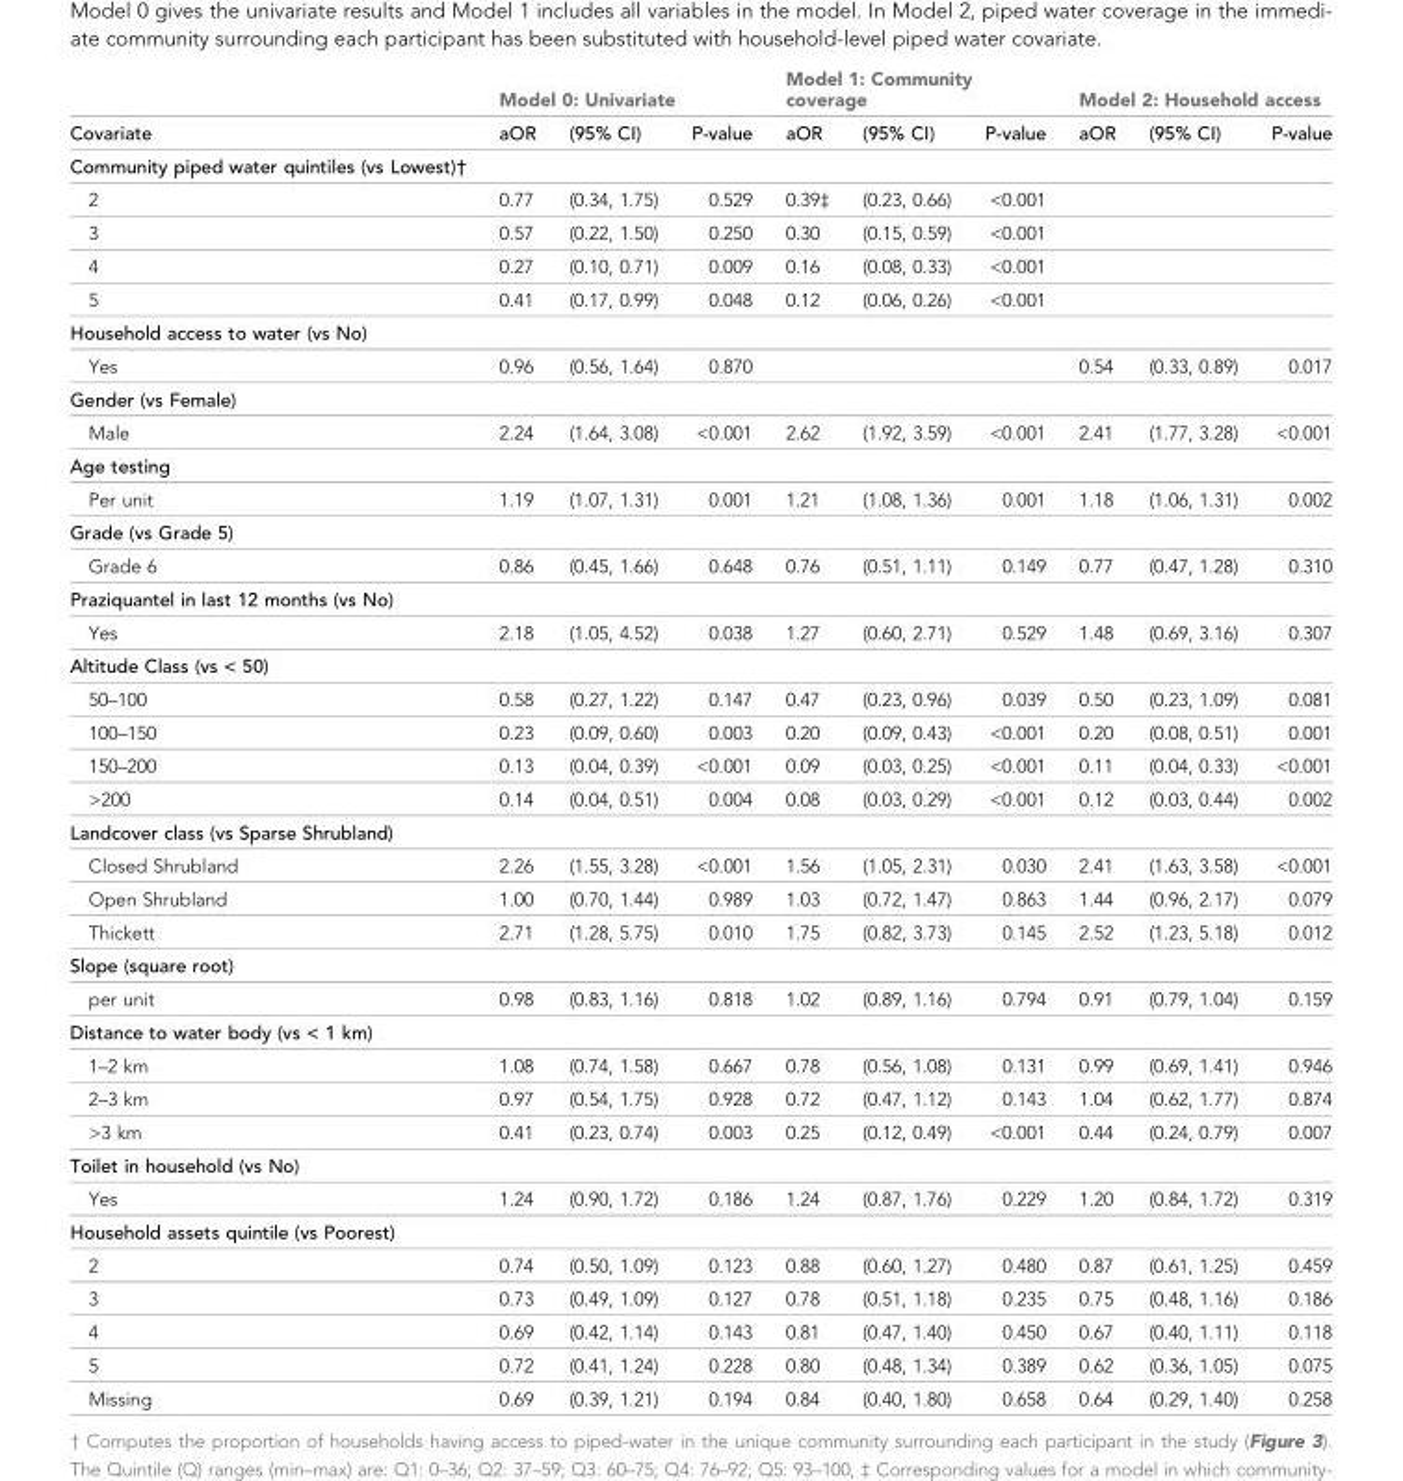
<table><thead><tr><td rowspan="2">Covariate</td><td colspan="3">Model 0: Univariate</td><td colspan="3">Model 1: Community coverage</td><td colspan="3">Model 2: Household access</td></tr><tr><td>aOR</td><td>(95% CI)</td><td>P-value</td><td>aOR</td><td>(95% CI)</td><td>P-value</td><td>aOR</td><td>(95% CI)</td><td>P-value</td></tr></thead><tbody><tr><td colspan="10">Community piped water quintiles (vs Lowest)†</td></tr><tr><td>2</td><td>0.77</td><td>(0.34, 1.75)</td><td>0.529</td><td>0.39‡</td><td>(0.23, 0.66)</td><td>&lt;0.001</td><td></td><td></td><td></td></tr><tr><td>3</td><td>0.57</td><td>(0.22, 1.50)</td><td>0.250</td><td>0.30</td><td>(0.15, 0.59)</td><td>&lt;0.001</td><td></td><td></td><td></td></tr><tr><td>4</td><td>0.27</td><td>(0.10, 0.71)</td><td>0.009</td><td>0.16</td><td>(0.08, 0.33)</td><td>&lt;0.001</td><td></td><td></td><td></td></tr><tr><td>5</td><td>0.41</td><td>(0.17, 0.99)</td><td>0.048</td><td>0.12</td><td>(0.06, 0.26)</td><td>&lt;0.001</td><td></td><td></td><td></td></tr><tr><td colspan="10">Household access to water (vs No)</td></tr><tr><td>Yes</td><td>0.96</td><td>(0.56, 1.64)</td><td>0.870</td><td></td><td></td><td></td><td>0.54</td><td>(0.33, 0.89)</td><td>0.017</td></tr><tr><td colspan="10">Gender (vs Female)</td></tr><tr><td>Male</td><td>2.24</td><td>(1.64, 3.08)</td><td>&lt;0.001</td><td>2.62</td><td>(1.92, 3.59)</td><td>&lt;0.001</td><td>2.41</td><td>(1.77, 3.28)</td><td>&lt;0.001</td></tr><tr><td colspan="10">Age testing</td></tr><tr><td>Per unit</td><td>1.19</td><td>(1.07, 1.31)</td><td>0.001</td><td>1.21</td><td>(1.08, 1.36)</td><td>0.001</td><td>1.18</td><td>(1.06, 1.31)</td><td>0.002</td></tr><tr><td colspan="10">Grade (vs Grade 5)</td></tr><tr><td>Grade 6</td><td>0.86</td><td>(0.45, 1.66)</td><td>0.648</td><td>0.76</td><td>(0.51, 1.11)</td><td>0.149</td><td>0.77</td><td>(0.47, 1.28)</td><td>0.310</td></tr><tr><td colspan="10">Praziquantel in last 12 months (vs No)</td></tr><tr><td>Yes</td><td>2.18</td><td>(1.05, 4.52)</td><td>0.038</td><td>1.27</td><td>(0.60, 2.71)</td><td>0.529</td><td>1.48</td><td>(0.69, 3.16)</td><td>0.307</td></tr><tr><td colspan="10">Altitude Class (vs &lt; 50)</td></tr><tr><td>50–100</td><td>0.58</td><td>(0.27, 1.22)</td><td>0.147</td><td>0.47</td><td>(0.23, 0.96)</td><td>0.039</td><td>0.50</td><td>(0.23, 1.09)</td><td>0.081</td></tr><tr><td>100–150</td><td>0.23</td><td>(0.09, 0.60)</td><td>0.003</td><td>0.20</td><td>(0.09, 0.43)</td><td>&lt;0.001</td><td>0.20</td><td>(0.08, 0.51)</td><td>0.001</td></tr><tr><td>150–200</td><td>0.13</td><td>(0.04, 0.39)</td><td>&lt;0.001</td><td>0.09</td><td>(0.03, 0.25)</td><td>&lt;0.001</td><td>0.11</td><td>(0.04, 0.33)</td><td>&lt;0.001</td></tr><tr><td>&gt;200</td><td>0.14</td><td>(0.04, 0.51)</td><td>0.004</td><td>0.08</td><td>(0.03, 0.29)</td><td>&lt;0.001</td><td>0.12</td><td>(0.03, 0.44)</td><td>0.002</td></tr><tr><td colspan="10">Landcover class (vs Sparse Shrubland)</td></tr><tr><td>Closed Shrubland</td><td>2.26</td><td>(1.55, 3.28)</td><td>&lt;0.001</td><td>1.56</td><td>(1.05, 2.31)</td><td>0.030</td><td>2.41</td><td>(1.63, 3.58)</td><td>&lt;0.001</td></tr><tr><td>Open Shrubland</td><td>1.00</td><td>(0.70, 1.44)</td><td>0.989</td><td>1.03</td><td>(0.72, 1.47)</td><td>0.863</td><td>1.44</td><td>(0.96, 2.17)</td><td>0.079</td></tr><tr><td>Thickett</td><td>2.71</td><td>(1.28, 5.75)</td><td>0.010</td><td>1.75</td><td>(0.82, 3.73)</td><td>0.145</td><td>2.52</td><td>(1.23, 5.18)</td><td>0.012</td></tr><tr><td colspan="10">Slope (square root)</td></tr><tr><td>per unit</td><td>0.98</td><td>(0.83, 1.16)</td><td>0.818</td><td>1.02</td><td>(0.89, 1.16)</td><td>0.794</td><td>0.91</td><td>(0.79, 1.04)</td><td>0.159</td></tr><tr><td colspan="10">Distance to water body (vs &lt; 1 km)</td></tr><tr><td>1–2 km</td><td>1.08</td><td>(0.74, 1.58)</td><td>0.667</td><td>0.78</td><td>(0.56, 1.08)</td><td>0.131</td><td>0.99</td><td>(0.69, 1.41)</td><td>0.946</td></tr><tr><td>2–3 km</td><td>0.97</td><td>(0.54, 1.75)</td><td>0.928</td><td>0.72</td><td>(0.47, 1.12)</td><td>0.143</td><td>1.04</td><td>(0.62, 1.77)</td><td>0.874</td></tr><tr><td>&gt;3 km</td><td>0.41</td><td>(0.23, 0.74)</td><td>0.003</td><td>0.25</td><td>(0.12, 0.49)</td><td>&lt;0.001</td><td>0.44</td><td>(0.24, 0.79)</td><td>0.007</td></tr><tr><td colspan="10">Toilet in household (vs No)</td></tr><tr><td>Yes</td><td>1.24</td><td>(0.90, 1.72)</td><td>0.186</td><td>1.24</td><td>(0.87, 1.76)</td><td>0.229</td><td>1.20</td><td>(0.84, 1.72)</td><td>0.319</td></tr><tr><td colspan="10">Household assets quintile (vs Poorest)</td></tr><tr><td>2</td><td>0.74</td><td>(0.50, 1.09)</td><td>0.123</td><td>0.88</td><td>(0.60, 1.27)</td><td>0.480</td><td>0.87</td><td>(0.61, 1.25)</td><td>0.459</td></tr><tr><td>3</td><td>0.73</td><td>(0.49, 1.09)</td><td>0.127</td><td>0.78</td><td>(0.51, 1.18)</td><td>0.235</td><td>0.75</td><td>(0.48, 1.16)</td><td>0.186</td></tr><tr><td>4</td><td>0.69</td><td>(0.42, 1.14)</td><td>0.143</td><td>0.81</td><td>(0.47, 1.40)</td><td>0.450</td><td>0.67</td><td>(0.40, 1.11)</td><td>0.118</td></tr><tr><td>5</td><td>0.72</td><td>(0.41, 1.24)</td><td>0.228</td><td>0.80</td><td>(0.48, 1.34)</td><td>0.389</td><td>0.62</td><td>(0.36, 1.05)</td><td>0.075</td></tr><tr><td>Missing</td><td>0.69</td><td>(0.39, 1.21)</td><td>0.194</td><td>0.84</td><td>(0.40, 1.80)</td><td>0.658</td><td>0.64</td><td>(0.29, 1.40)</td><td>0.258</td></tr></tbody></table>